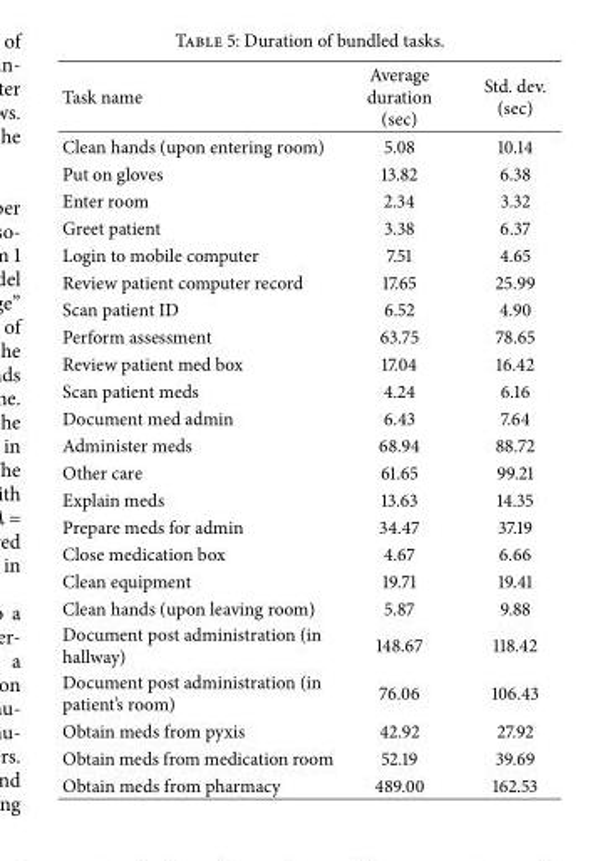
<table><thead><tr><td>Task name</td><td>Average duration (sec)</td><td>Std. dev. (sec)</td></tr></thead><tbody><tr><td>Clean hands (upon entering room)</td><td>5.08</td><td>10.14</td></tr><tr><td>Put on gloves</td><td>13.82</td><td>6.38</td></tr><tr><td>Enter room</td><td>2.34</td><td>3.32</td></tr><tr><td>Greet patient</td><td>3.38</td><td>6.37</td></tr><tr><td>Login to mobile computer</td><td>7.51</td><td>4.65</td></tr><tr><td>Review patient computer record</td><td>17.65</td><td>25.99</td></tr><tr><td>Scan patient ID</td><td>6.52</td><td>4.90</td></tr><tr><td>Perform assessment</td><td>63.75</td><td>78.65</td></tr><tr><td>Review patient med box</td><td>17.04</td><td>16.42</td></tr><tr><td>Scan patient meds</td><td>4.24</td><td>6.16</td></tr><tr><td>Document med admin</td><td>6.43</td><td>7.64</td></tr><tr><td>Administer meds</td><td>68.94</td><td>88.72</td></tr><tr><td>Other care</td><td>61.65</td><td>99.21</td></tr><tr><td>Explain meds</td><td>13.63</td><td>14.35</td></tr><tr><td>Prepare meds for admin</td><td>34.47</td><td>37.19</td></tr><tr><td>Close medication box</td><td>4.67</td><td>6.66</td></tr><tr><td>Clean equipment</td><td>19.71</td><td>19.41</td></tr><tr><td>Clean hands (upon leaving room)</td><td>5.87</td><td>9.88</td></tr><tr><td>Document post administration (in hallway)</td><td>148.67</td><td>118.42</td></tr><tr><td>Document post administration (in patient’s room)</td><td>76.06</td><td>106.43</td></tr><tr><td>Obtain meds from pyxis</td><td>42.92</td><td>27.92</td></tr><tr><td>Obtain meds from medication room</td><td>52.19</td><td>39.69</td></tr><tr><td>Obtain meds from pharmacy</td><td>489.00</td><td>162.53</td></tr></tbody></table>